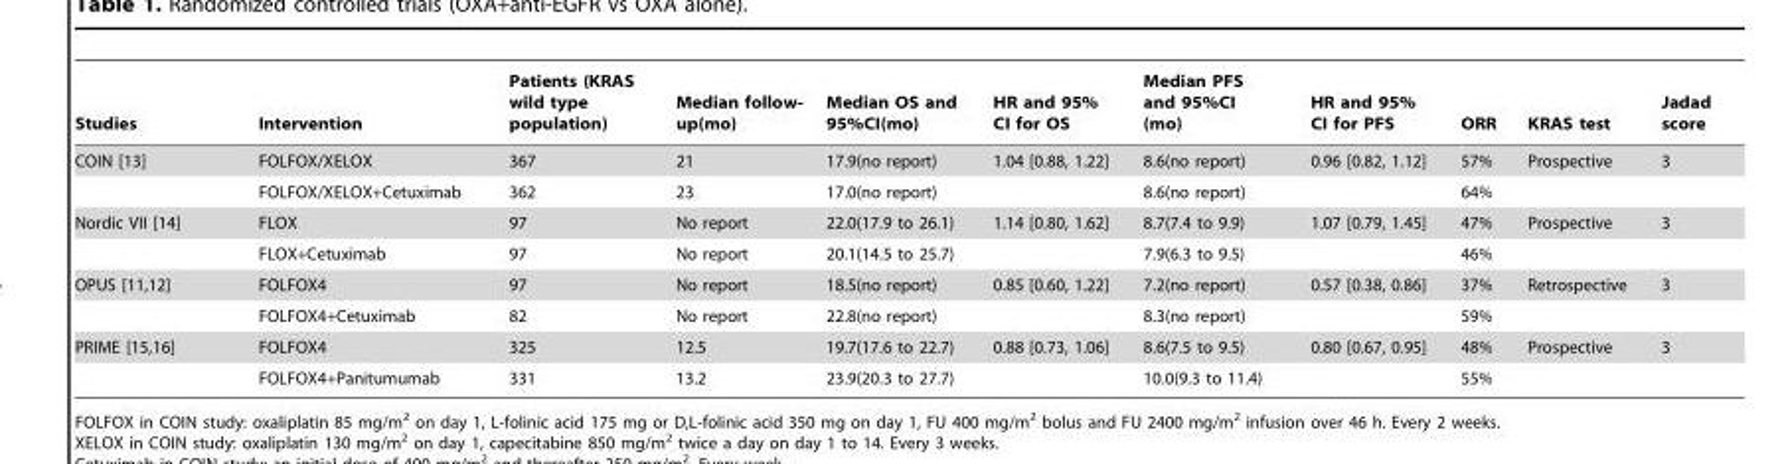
<table><thead><tr><td>Studies</td><td>Intervention</td><td>Patients (KRAS wild type population)</td><td>Median follow- up(mo)</td><td>Median OS and 95%CI(mo)</td><td>HR and 95% CI for OS</td><td>Median PFS and 95%CI (mo)</td><td>HR and 95% CI for PFS</td><td>ORR</td><td>KRAS test</td><td>Jadad score</td></tr></thead><tbody><tr><td rowspan="2">COIN [13]</td><td>FOLFOX/XELOX</td><td>367</td><td>21</td><td>17.9(no report)</td><td>1.04 [0.88, 1.22]</td><td>8.6(no report)</td><td>0.96 [0.82, 1.12]</td><td>57%</td><td>Prospective</td><td>3</td></tr><tr><td>FOLFOX/XELOX+Cetuximab</td><td>362</td><td>23</td><td>17.0(no report)</td><td></td><td>8.6(no report)</td><td></td><td>64%</td><td></td><td></td></tr><tr><td rowspan="2">Nordic VII [14]</td><td>FLOX</td><td>97</td><td>No report</td><td>22.0(17.9 to 26.1)</td><td>1.14 [0.80, 1.62]</td><td>8.7(7.4 to 9.9)</td><td>1.07 [0.79, 1.45]</td><td>47%</td><td>Prospective</td><td>3</td></tr><tr><td>FLOX+Cetuximab</td><td>97</td><td>No report</td><td>20.1(14.5 to 25.7)</td><td></td><td>7.9(6.3 to 9.5)</td><td></td><td>46%</td><td></td><td></td></tr><tr><td rowspan="2">OPUS [11,12]</td><td>FOLFOX4</td><td>97</td><td>No report</td><td>18.5(no report)</td><td>0.85 [0.60, 1.22]</td><td>7.2(no report)</td><td>0.57 [0.38, 0.86]</td><td>37%</td><td>Retrospective</td><td>3</td></tr><tr><td>FOLFOX4+Cetuximab</td><td>82</td><td>No report</td><td>22.8(no report)</td><td></td><td>8.3(no report)</td><td></td><td>59%</td><td></td><td></td></tr><tr><td rowspan="2">PRIME [15,16]</td><td>FOLFOX4</td><td>325</td><td>12.5</td><td>19.7(17.6 to 22.7)</td><td>0.88 [0.73, 1.06]</td><td>8.6(7.5 to 9.5)</td><td>0.80 [0.67, 0.95]</td><td>48%</td><td>Prospective</td><td>3</td></tr><tr><td>FOLFOX4+Panitumumab</td><td>331</td><td>13.2</td><td>23.9(20.3 to 27.7)</td><td></td><td>10.0(9.3 to 11.4)</td><td></td><td>55%</td><td></td><td></td></tr></tbody></table>